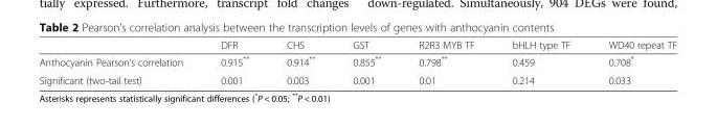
<table><thead><tr><td></td><td>DFR</td><td>CHS</td><td>GST</td><td>R2R3 MYB TF</td><td>bHLH type TF</td><td>WD40 repeat TF</td></tr></thead><tbody><tr><td>Anthocyanin Pearson’s correlation</td><td>0.915**</td><td>0.914**</td><td>0.855**</td><td>0.798**</td><td>0.459</td><td>0.708*</td></tr><tr><td>Significant (two-tail test)</td><td>0.001</td><td>0.003</td><td>0.001</td><td>0.01</td><td>0.214</td><td>0.033</td></tr></tbody></table>